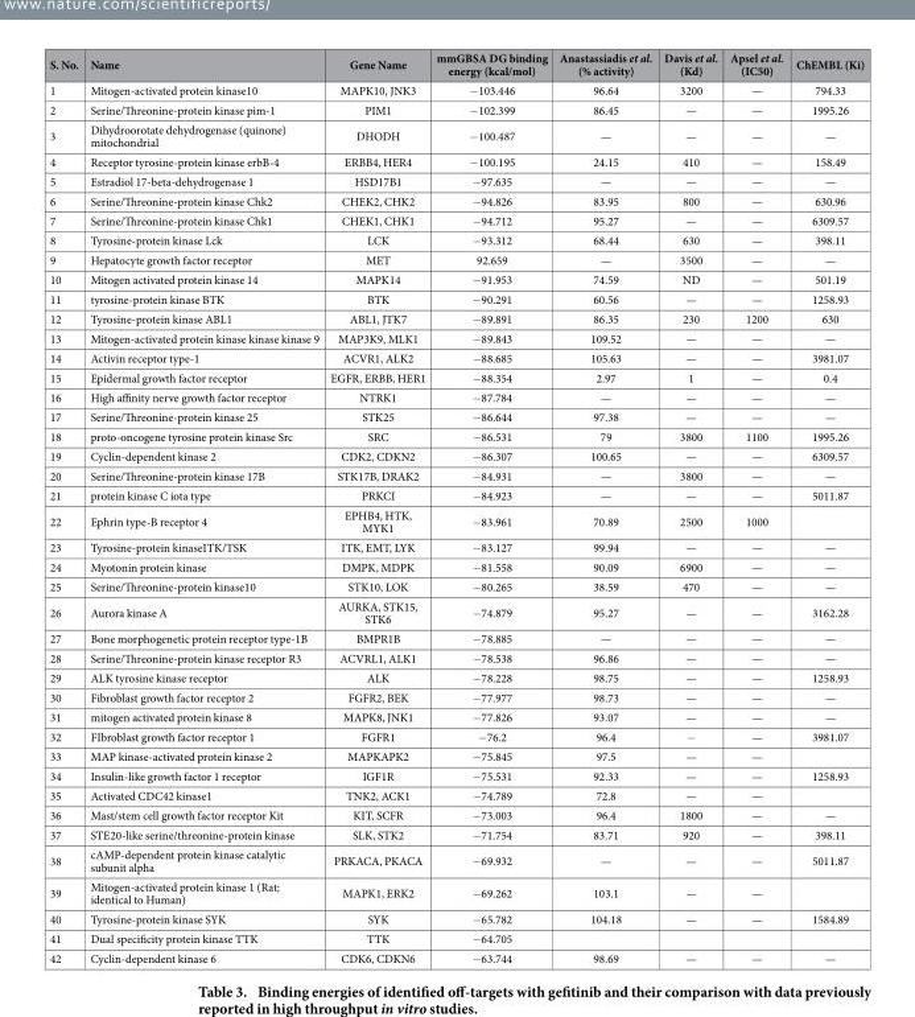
<table><tbody><tr><td>S. No.</td><td>Name</td><td>Gene Name</td><td>mmGBSA DG binding energy (kcal/mol)</td><td>Anastassiadis et al. (% activity)</td><td>Davis et al. (Kd)</td><td>Apsel et al. (IC50)</td><td>ChEMBL (Ki)</td></tr><tr><td>1</td><td>Mitogen-activated protein kinase10</td><td>MAPK10, JNK3</td><td>− 103.446</td><td>96.64</td><td>3200</td><td>—</td><td>794.33</td></tr><tr><td>2</td><td>Serine/Threonine-protein kinase pim-1</td><td>PIM1</td><td>− 102.399</td><td>86.45</td><td>—</td><td>—</td><td>1995.26</td></tr><tr><td>3</td><td>Dihydroorotate dehydrogenase (quinone) mitochondrial</td><td>DHODH</td><td>− 100.487</td><td>—</td><td>—</td><td>—</td><td>—</td></tr><tr><td>4</td><td>Receptor tyrosine-protein kinase erbB-4</td><td>ERBB4, HER4</td><td>− 100.195</td><td>24.15</td><td>410</td><td>—</td><td>158.49</td></tr><tr><td>5</td><td>Estradiol 17-beta-dehydrogenase 1</td><td>HSD17B1</td><td>− 97.635</td><td>—</td><td>—</td><td>—</td><td>—</td></tr><tr><td>6</td><td>Serine/Threonine-protein kinase Chk2</td><td>CHEK2, CHK2</td><td>− 94.826</td><td>83.95</td><td>800</td><td>—</td><td>630.96</td></tr><tr><td>7</td><td>Serine/Threonine-protein kinase Chk1</td><td>CHEK1, CHK1</td><td>− 94.712</td><td>95.27</td><td>—</td><td>—</td><td>6309.57</td></tr><tr><td>8</td><td>Tyrosine-protein kinase Lck</td><td>LCK</td><td>− 93.312</td><td>68.44</td><td>630</td><td>—</td><td>398.11</td></tr><tr><td>9</td><td>Hepatocyte growth factor receptor</td><td>MET</td><td>92.659</td><td>—</td><td>3500</td><td>—</td><td>—</td></tr><tr><td>10</td><td>Mitogen activated protein kinase 14</td><td>MAPK14</td><td>− 91.953</td><td>74.59</td><td>ND</td><td>—</td><td>501.19</td></tr><tr><td>11</td><td>tyrosine-protein kinase BTK</td><td>BTK</td><td>− 90.291</td><td>60.56</td><td>—</td><td>—</td><td>1258.93</td></tr><tr><td>12</td><td>Tyrosine-protein kinase ABL1</td><td>ABL1, JTK7</td><td>−89.891</td><td>86.35</td><td>230</td><td>1200</td><td>630</td></tr><tr><td>13</td><td>Mitogen-activated protein kinase kinase kinase 9</td><td>MAP3K9, MLK1</td><td>− 89.843</td><td>109.52</td><td>—</td><td>—</td><td>—</td></tr><tr><td>14</td><td>Activin receptor type-1</td><td>ACVR1, ALK2</td><td>− 88.685</td><td>105.63</td><td>—</td><td>—</td><td>3981.07</td></tr><tr><td>15</td><td>Epidermal growth factor receptor</td><td>EGFR, ERBB, HER1</td><td>− 88.354</td><td>2.97</td><td>1</td><td>—</td><td>0.4</td></tr><tr><td>16</td><td>High affinity nerve growth factor receptor</td><td>NTRK1</td><td>− 87.784</td><td>—</td><td>—</td><td>—</td><td>—</td></tr><tr><td>17</td><td>Serine/Threonine-protein kinase 25</td><td>STK25</td><td>− 86.644</td><td>97.38</td><td>—</td><td>—</td><td>—</td></tr><tr><td>18</td><td>proto-oncogene tyrosine protein kinase Src</td><td>SRC</td><td>− 86.531</td><td>79</td><td>3800</td><td>1100</td><td>1995.26</td></tr><tr><td>19</td><td>Cyclin-dependent kinase 2</td><td>CDK2, CDKN2</td><td>− 86.307</td><td>100.65</td><td>—</td><td>—</td><td>6309.57</td></tr><tr><td>20</td><td>Serine/Threonine-protein kinase 17B</td><td>STK17B, DRAK2</td><td>− 84.931</td><td>—</td><td>3800</td><td>—</td><td>—</td></tr><tr><td>21</td><td>protein kinase C iota type</td><td>PRKCI</td><td>− 84.923</td><td>—</td><td>—</td><td>—</td><td>5011.87</td></tr><tr><td>22</td><td>Ephrin type-B receptor 4</td><td>EPHB4, HTK, MYK1</td><td>− 83.961</td><td>70.89</td><td>2500</td><td>1000</td><td></td></tr><tr><td>23</td><td>Tyrosine-protein kinaseITK/TSK</td><td>ITK, EMT, LYK</td><td>− 83.127</td><td>99.94</td><td>—</td><td>—</td><td>—</td></tr><tr><td>24</td><td>Myotonin protein kinase</td><td>DMPK, MDPK</td><td>− 81.558</td><td>90.09</td><td>6900</td><td>—</td><td>—</td></tr><tr><td>25</td><td>Serine/Threonine-protein kinase10</td><td>STK10, LOK</td><td>− 80.265</td><td>38.59</td><td>470</td><td>—</td><td>—</td></tr><tr><td>26</td><td>Aurora kinase A</td><td>AURKA, STK15, STK6</td><td>− 74.879</td><td>95.27</td><td>—</td><td>—</td><td>3162.28</td></tr><tr><td>27</td><td>Bone morphogenetic protein receptor type-1B</td><td>BMPR1B</td><td>− 78.885</td><td>—</td><td>—</td><td>—</td><td>—</td></tr><tr><td>28</td><td>Serine/Threonine-protein kinase receptor R3</td><td>ACVRL1, ALK1</td><td>− 78.538</td><td>96.86</td><td>—</td><td>—</td><td>—</td></tr><tr><td>29</td><td>ALK tyrosine kinase receptor</td><td>ALK</td><td>− 78.228</td><td>98.75</td><td>—</td><td>—</td><td>1258.93</td></tr><tr><td>30</td><td>Fibroblast growth factor receptor 2</td><td>FGFR2, BEK</td><td>− 77.977</td><td>98.73</td><td>—</td><td>—</td><td>—</td></tr><tr><td>31</td><td>mitogen activated protein kinase 8</td><td>MAPK8, JNK1</td><td>− 77.826</td><td>93.07</td><td>—</td><td>—</td><td>—</td></tr><tr><td>32</td><td>FIbroblast growth factor receptor 1</td><td>FGFR1</td><td>− 76.2</td><td>96.4</td><td>−</td><td>—</td><td>3981.07</td></tr><tr><td>33</td><td>MAP kinase-activated protein kinase 2</td><td>MAPKAPK2</td><td>− 75.845</td><td>97.5</td><td>—</td><td>—</td><td></td></tr><tr><td>34</td><td>Insulin-like growth factor 1 receptor</td><td>IGF1R</td><td>− 75.531</td><td>92.33</td><td>—</td><td>—</td><td>1258.93</td></tr><tr><td>35</td><td>Activated CDC42 kinase1</td><td>TNK2, ACK1</td><td>− 74.789</td><td>72.8</td><td>—</td><td>—</td><td></td></tr><tr><td>36</td><td>Mast/stem cell growth factor receptor Kit</td><td>KIT, SCFR</td><td>− 73.003</td><td>96.4</td><td>1800</td><td>—</td><td>—</td></tr><tr><td>37</td><td>STE20-like serine/threonine-protein kinase</td><td>SLK, STK2</td><td>− 71.754</td><td>83.71</td><td>920</td><td>—</td><td>398.11</td></tr><tr><td>38</td><td>cAMP-dependent protein kinase catalytic subunit alpha</td><td>PRKACA, PKACA</td><td>− 69.932</td><td>—</td><td>—</td><td>—</td><td>5011.87</td></tr><tr><td>39</td><td>Mitogen-activated protein kinase 1 (Rat; identical to Human)</td><td>MAPK1, ERK2</td><td>− 69.262</td><td>103.1</td><td>—</td><td>—</td><td></td></tr><tr><td>40</td><td>Tyrosine-protein kinase SYK</td><td>SYK</td><td>− 65.782</td><td>104.18</td><td>—</td><td>—</td><td>1584.89</td></tr><tr><td>41</td><td>Dual specificity protein kinase TTK</td><td>TTK</td><td>− 64.705</td><td></td><td></td><td></td><td></td></tr><tr><td>42</td><td>Cyclin-dependent kinase 6</td><td>CDK6, CDKN6</td><td>− 63.744</td><td>98.69</td><td>—</td><td>—</td><td>—</td></tr></tbody></table>